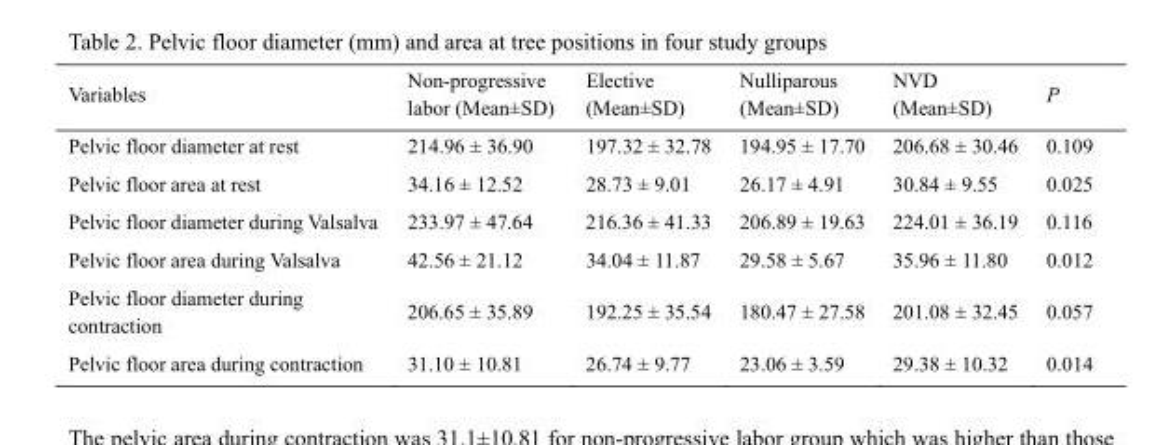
<table><thead><tr><td>Variables</td><td>Non-progressive labor (Mean±SD)</td><td>Elective (Mean±SD)</td><td>Nulliparous (Mean±SD)</td><td>NVD (Mean±SD)</td><td>P</td></tr></thead><tbody><tr><td>Pelvic floor diameter at rest</td><td>214.96 ± 36.90</td><td>197.32 ± 32.78</td><td>194.95 ± 17.70</td><td>206.68 ± 30.46</td><td>0.109</td></tr><tr><td>Pelvic floor area at rest</td><td>34.16 ± 12.52</td><td>28.73 ± 9.01</td><td>26.17 ± 4.91</td><td>30.84 ± 9.55</td><td>0.025</td></tr><tr><td>Pelvic floor diameter during Valsalva</td><td>233.97 ± 47.64</td><td>216.36 ± 41.33</td><td>206.89 ± 19.63</td><td>224.01 ± 36.19</td><td>0.116</td></tr><tr><td>Pelvic floor area during Valsalva</td><td>42.56 ± 21.12</td><td>34.04 ± 11.87</td><td>29.58 ± 5.67</td><td>35.96 ± 11.80</td><td>0.012</td></tr><tr><td>Pelvic floor diameter during contraction</td><td>206.65 ± 35.89</td><td>192.25 ± 35.54</td><td>180.47 ± 27.58</td><td>201.08 ± 32.45</td><td>0.057</td></tr><tr><td>Pelvic floor area during contraction</td><td>31.10 ± 10.81</td><td>26.74 ± 9.77</td><td>23.06 ± 3.59</td><td>29.38 ± 10.32</td><td>0.014</td></tr></tbody></table>